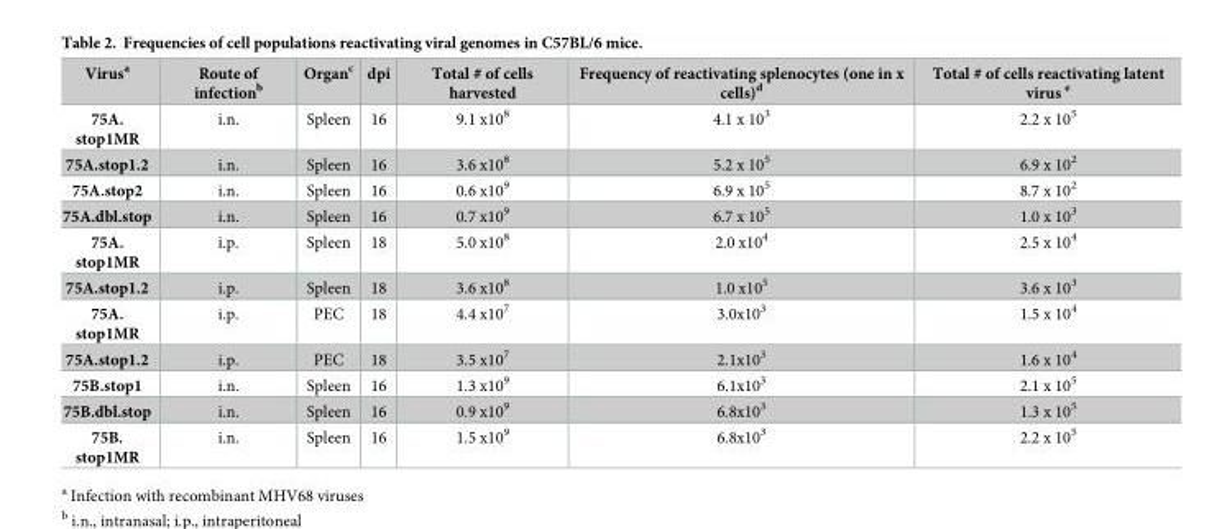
<table><thead><tr><td>Virus<sup>a</sup></td><td>Route of infection<sup>b</sup></td><td>Organ<sup>c</sup></td><td>dpi</td><td>Total # of cells harvested</td><td>Frequency of reactivating splenocytes (one in x cells)<sup>d</sup></td><td>Total # of cells reactivating latent virus <sup>e</sup></td></tr></thead><tbody><tr><td>75A. stop1MR</td><td>i.n.</td><td>Spleen</td><td>16</td><td>9.1 x10<sup>8</sup></td><td>4.1 x 10<sup>3</sup></td><td>2.2 x 10<sup>5</sup></td></tr><tr><td>75A.stop1.2</td><td>i.n.</td><td>Spleen</td><td>16</td><td>3.6 x10<sup>8</sup></td><td>5.2 x 10<sup>5</sup></td><td>6.9 x 10<sup>2</sup></td></tr><tr><td>75A.stop2</td><td>i.n.</td><td>Spleen</td><td>16</td><td>0.6 x10<sup>9</sup></td><td>6.9 x 10<sup>5</sup></td><td>8.7 x 10<sup>2</sup></td></tr><tr><td>75A.dbl.stop</td><td>i.n.</td><td>Spleen</td><td>16</td><td>0.7 x10<sup>9</sup></td><td>6.7 x 10<sup>5</sup></td><td>1.0 x 10<sup>3</sup></td></tr><tr><td>75A. stop1MR</td><td>i.p.</td><td>Spleen</td><td>18</td><td>5.0 x10<sup>8</sup></td><td>2.0 x10<sup>4</sup></td><td>2.5 x 10<sup>4</sup></td></tr><tr><td>75A.stop1.2</td><td>i.p.</td><td>Spleen</td><td>18</td><td>3.6 x10<sup>8</sup></td><td>1.0 x10<sup>5</sup></td><td>3.6 x 10<sup>3</sup></td></tr><tr><td>75A. stop1MR</td><td>i.p.</td><td>PEC</td><td>18</td><td>4.4 x10<sup>7</sup></td><td>3.0x10<sup>3</sup></td><td>1.5 x 10<sup>4</sup></td></tr><tr><td>75A.stop1.2</td><td>i.p.</td><td>PEC</td><td>18</td><td>3.5 x10<sup>7</sup></td><td>2.1x10<sup>3</sup></td><td>1.6 x 10<sup>4</sup></td></tr><tr><td>75B.stop1</td><td>i.n.</td><td>Spleen</td><td>16</td><td>1.3 x10<sup>9</sup></td><td>6.1x10<sup>3</sup></td><td>2.1 x 10<sup>5</sup></td></tr><tr><td>75B.dbl.stop</td><td>i.n.</td><td>Spleen</td><td>16</td><td>0.9 x10<sup>9</sup></td><td>6.8x10<sup>3</sup></td><td>1.3 x 10<sup>5</sup></td></tr><tr><td>75B. stop1MR</td><td>i.n.</td><td>Spleen</td><td>16</td><td>1.5 x10<sup>9</sup></td><td>6.8x10<sup>3</sup></td><td>2.2 x 10<sup>5</sup></td></tr></tbody></table>